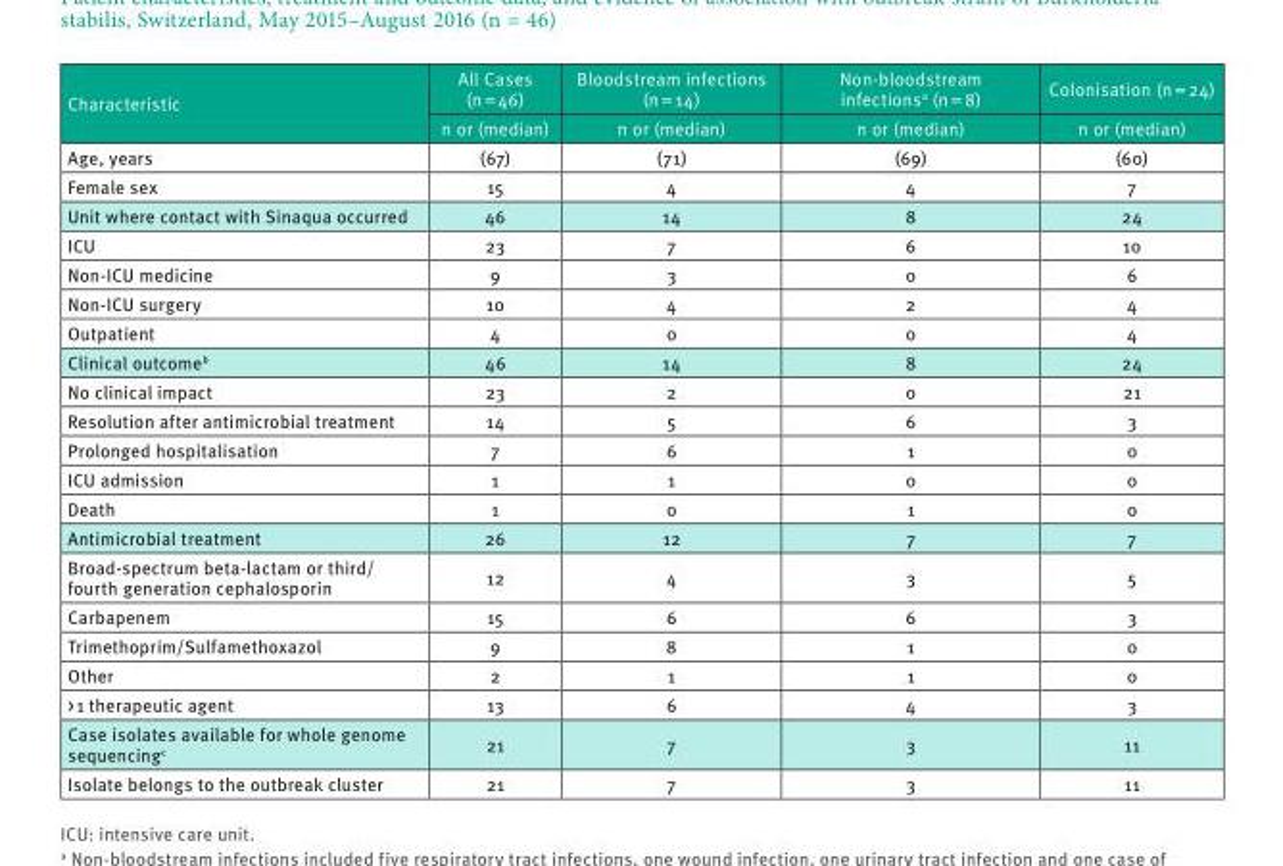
<table><thead><tr><td rowspan="2">Characteristic</td><td rowspan="2">All Cases (n = 46) n or (median)</td><td rowspan="2">Bloodstream infections (n = 14) n or (median)</td><td rowspan="2">Non-bloodstream infections<sup>a</sup> (n = 8) n or (median)</td><td rowspan="2">Colonisation (n = 24) n or (median)</td></tr><tr></tr></thead><tbody><tr><td>Age, years</td><td>(67)</td><td>(71)</td><td>(69)</td><td>(60)</td></tr><tr><td>Female sex</td><td>15</td><td>4</td><td>4</td><td>7</td></tr><tr><td>Unit where contact with Sinaqua occurred</td><td>46</td><td>14</td><td>8</td><td>24</td></tr><tr><td>ICU</td><td>23</td><td>7</td><td>6</td><td>10</td></tr><tr><td>Non-ICU medicine</td><td>9</td><td>3</td><td>0</td><td>6</td></tr><tr><td>Non-ICU surgery</td><td>10</td><td>4</td><td>2</td><td>4</td></tr><tr><td>Outpatient</td><td>4</td><td>0</td><td>0</td><td>4</td></tr><tr><td>Clinical outcome<sup>b</sup></td><td>46</td><td>14</td><td>8</td><td>24</td></tr><tr><td>No clinical impact</td><td>23</td><td>2</td><td>0</td><td>21</td></tr><tr><td>Resolution after antimicrobial treatment</td><td>14</td><td>5</td><td>6</td><td>3</td></tr><tr><td>Prolonged hospitalisation</td><td>7</td><td>6</td><td>1</td><td>0</td></tr><tr><td>ICU admission</td><td>1</td><td>1</td><td>0</td><td>0</td></tr><tr><td>Death</td><td>1</td><td>0</td><td>1</td><td>0</td></tr><tr><td>Antimicrobial treatment</td><td>26</td><td>12</td><td>7</td><td>7</td></tr><tr><td>Broad-spectrum beta-lactam or third/ fourth generation cephalosporin</td><td>12</td><td>4</td><td>3</td><td>5</td></tr><tr><td>Carbapenem</td><td>15</td><td>6</td><td>6</td><td>3</td></tr><tr><td>Trimethoprim/Sulfamethoxazol</td><td>9</td><td>8</td><td>1</td><td>0</td></tr><tr><td>Other</td><td>2</td><td>1</td><td>1</td><td>0</td></tr><tr><td>&gt; 1 therapeutic agent</td><td>13</td><td>6</td><td>4</td><td>3</td></tr><tr><td>Case isolates available for whole genome sequencing<sup>c</sup></td><td>21</td><td>7</td><td>3</td><td>11</td></tr><tr><td>Isolate belongs to the outbreak cluster</td><td>21</td><td>7</td><td>3</td><td>11</td></tr></tbody></table>